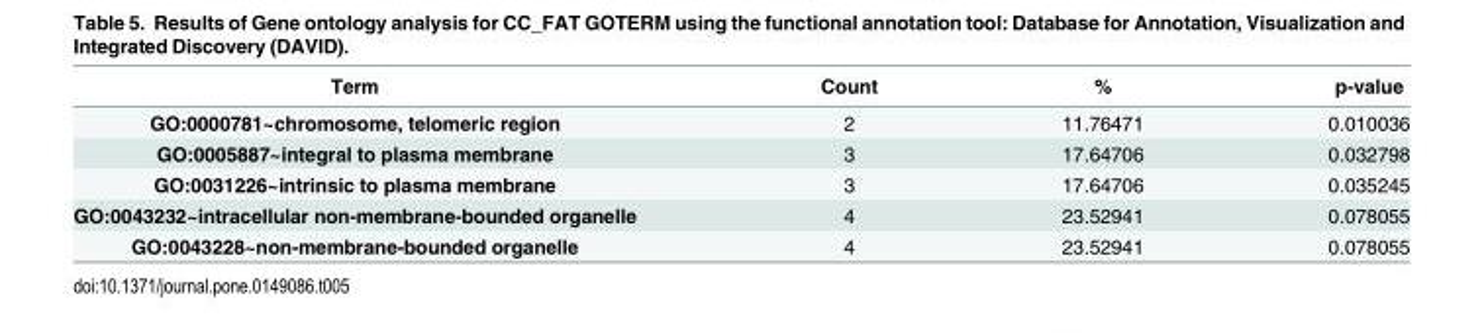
<table><thead><tr><td>Term</td><td>Count</td><td>%</td><td>p-value</td></tr></thead><tbody><tr><td>GO:0000781~chromosome, telomeric region</td><td>2</td><td>11.76471</td><td>0.010036</td></tr><tr><td>GO:0005887~integral to plasma membrane</td><td>3</td><td>17.64706</td><td>0.032798</td></tr><tr><td>GO:0031226~intrinsic to plasma membrane</td><td>3</td><td>17.64706</td><td>0.035245</td></tr><tr><td>GO:0043232~intracellular non-membrane-bounded organelle</td><td>4</td><td>23.52941</td><td>0.078055</td></tr><tr><td>GO:0043228~non-membrane-bounded organelle</td><td>4</td><td>23.52941</td><td>0.078055</td></tr></tbody></table>